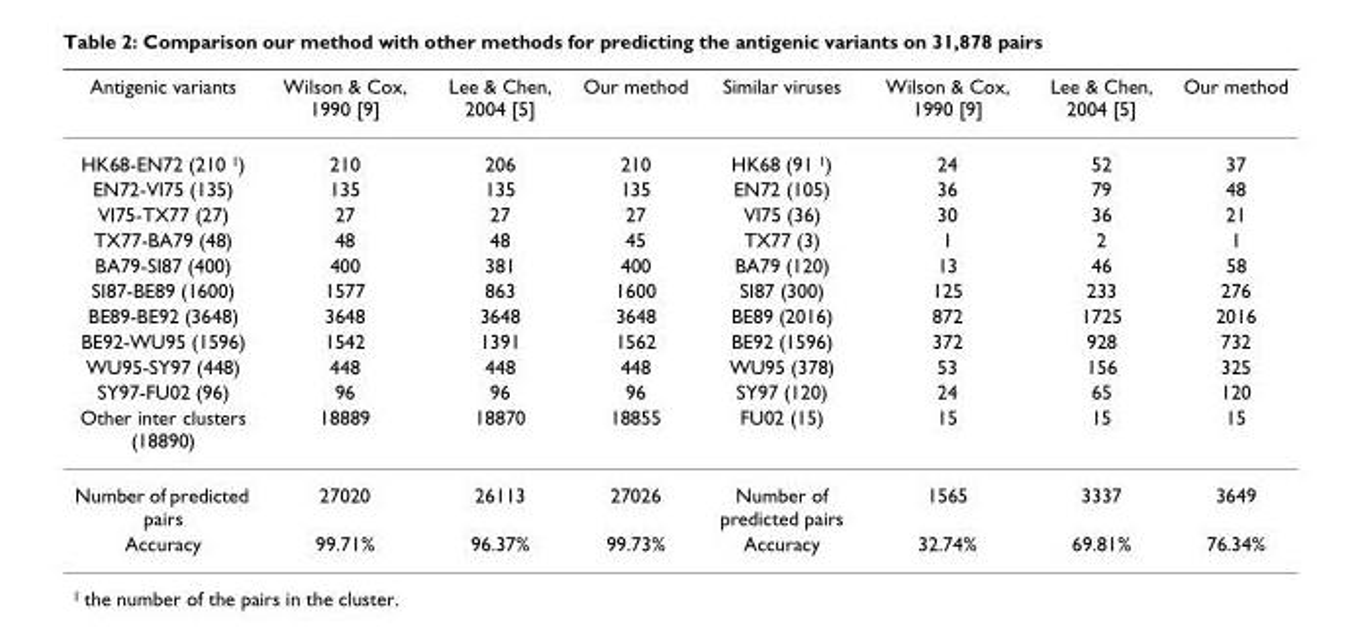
<table><thead><tr><td>Antigenic variants</td><td>Wilson &amp; Cox, 1990 [9]</td><td>Lee &amp; Chen, 2004 [5]</td><td>Our method</td><td>Similar viruses</td><td>Wilson &amp; Cox, 1990 [9]</td><td>Lee &amp; Chen, 2004 [5]</td><td>Our method</td></tr></thead><tbody><tr><td>HK68-EN72 (210 <sup>1</sup>)</td><td>210</td><td>206</td><td>210</td><td>HK68 (91 <sup>1</sup>)</td><td>24</td><td>52</td><td>37</td></tr><tr><td>EN72-VI75 (135)</td><td>135</td><td>135</td><td>135</td><td>EN72 (105)</td><td>36</td><td>79</td><td>48</td></tr><tr><td>VI75-TX77 (27)</td><td>27</td><td>27</td><td>27</td><td>VI75 (36)</td><td>30</td><td>36</td><td>21</td></tr><tr><td>TX77-BA79 (48)</td><td>48</td><td>48</td><td>45</td><td>TX77 (3)</td><td>1</td><td>2</td><td>1</td></tr><tr><td>BA79-SI87 (400)</td><td>400</td><td>381</td><td>400</td><td>BA79 (120)</td><td>13</td><td>46</td><td>58</td></tr><tr><td>SI87-BE89 (1600)</td><td>1577</td><td>863</td><td>1600</td><td>SI87 (300)</td><td>125</td><td>233</td><td>276</td></tr><tr><td>BE89-BE92 (3648)</td><td>3648</td><td>3648</td><td>3648</td><td>BE89 (2016)</td><td>872</td><td>1725</td><td>2016</td></tr><tr><td>BE92-WU95 (1596)</td><td>1542</td><td>1391</td><td>1562</td><td>BE92 (1596)</td><td>372</td><td>928</td><td>732</td></tr><tr><td>WU95-SY97 (448)</td><td>448</td><td>448</td><td>448</td><td>WU95 (378)</td><td>53</td><td>156</td><td>325</td></tr><tr><td>SY97-FU02 (96)</td><td>96</td><td>96</td><td>96</td><td>SY97 (120)</td><td>24</td><td>65</td><td>120</td></tr><tr><td>Other inter clusters (18890)</td><td>18889</td><td>18870</td><td>18855</td><td>FU02 (15)</td><td>15</td><td>15</td><td>15</td></tr><tr><td>Number of predicted pairs</td><td>27020</td><td>26113</td><td>27026</td><td>Number of predicted pairs</td><td>1565</td><td>3337</td><td>3649</td></tr><tr><td>Accuracy</td><td>99.71%</td><td>96.37%</td><td>99.73%</td><td>Accuracy</td><td>32.74%</td><td>69.81%</td><td>76.34%</td></tr></tbody></table>